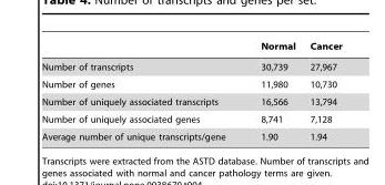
<table><thead><tr><td></td><td>Normal</td><td>Cancer</td></tr></thead><tbody><tr><td>Number of transcripts</td><td>30,739</td><td>27,967</td></tr><tr><td>Number of genes</td><td>11,980</td><td>10,730</td></tr><tr><td>Number of uniquely associated transcripts</td><td>16,566</td><td>13,794</td></tr><tr><td>Number of uniquely associated genes</td><td>8,741</td><td>7,128</td></tr><tr><td>Average number of unique transcripts/gene</td><td>1.90</td><td>1.94</td></tr></tbody></table>